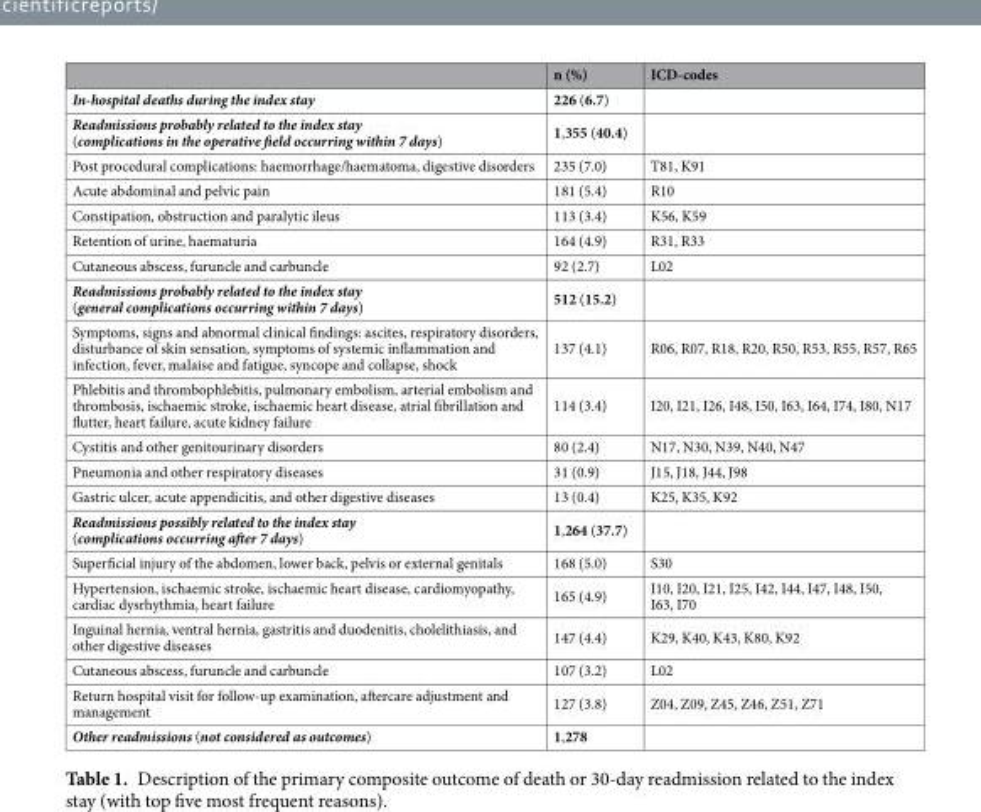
<table><thead><tr><td></td><td>n (%)</td><td>ICD-codes</td></tr></thead><tbody><tr><td>In-hospital deaths during the index stay</td><td>226 (6.7)</td><td></td></tr><tr><td>Readmissions probably related to the index stay (complications in the operative field occurring within 7 days)</td><td>1,355 (40.4)</td><td></td></tr><tr><td>Post procedural complications: haemorrhage/haematoma, digestive disorders</td><td>235 (7.0)</td><td>T81, K91</td></tr><tr><td>Acute abdominal and pelvic pain</td><td>181 (5.4)</td><td>R10</td></tr><tr><td>Constipation, obstruction and paralytic ileus</td><td>113 (3.4)</td><td>K56, K59</td></tr><tr><td>Retention of urine, haematuria</td><td>164 (4.9)</td><td>R31, R33</td></tr><tr><td>Cutaneous abscess, furuncle and carbuncle</td><td>92 (2.7)</td><td>L02</td></tr><tr><td>Readmissions probably related to the index stay (general complications occurring within 7 days)</td><td>512 (15.2)</td><td></td></tr><tr><td>Symptoms, signs and abnormal clinical findings: ascites, respiratory disorders, disturbance of skin sensation, symptoms of systemic inflammation and infection, fever, malaise and fatigue, syncope and collapse, shock</td><td>137 (4.1)</td><td>R06, R07, R18, R20, R50, R53, R55, R57, R65</td></tr><tr><td>Phlebitis and thrombophlebitis, pulmonary embolism, arterial embolism and thrombosis, ischaemic stroke, ischaemic heart disease, atrial fibrillation and flutter, heart failure, acute kidney failure</td><td>114 (3.4)</td><td>I20, I21, I26, I48, I50, I63, I64, I74, I80, N17</td></tr><tr><td>Cystitis and other genitourinary disorders</td><td>80 (2.4)</td><td>N17, N30, N39, N40, N47</td></tr><tr><td>Pneumonia and other respiratory diseases</td><td>31 (0.9)</td><td>J15, J18, J44, J98</td></tr><tr><td>Gastric ulcer, acute appendicitis, and other digestive diseases</td><td>13 (0.4)</td><td>K25, K35, K92</td></tr><tr><td>Readmissions possibly related to the index stay (complications occurring after 7 days)</td><td>1,264 (37.7)</td><td></td></tr><tr><td>Superficial injury of the abdomen, lower back, pelvis or external genitals</td><td>168 (5.0)</td><td>S30</td></tr><tr><td>Hypertension, ischaemic stroke, ischaemic heart disease, cardiomyopathy, cardiac dysrhythmia, heart failure</td><td>165 (4.9)</td><td>I10, I20, I21, I25, I42, I44, I47, I48, I50, I63, I70</td></tr><tr><td>Inguinal hernia, ventral hernia, gastritis and duodenitis, cholelithiasis, and other digestive diseases</td><td>147 (4.4)</td><td>K29, K40, K43, K80, K92</td></tr><tr><td>Cutaneous abscess, furuncle and carbuncle</td><td>107 (3.2)</td><td>L02</td></tr><tr><td>Return hospital visit for follow-up examination, aftercare adjustment and management</td><td>127 (3.8)</td><td>Z04, Z09, Z45, Z46, Z51, Z71</td></tr><tr><td>Other readmissions (not considered as outcomes)</td><td>1,278</td><td></td></tr></tbody></table>